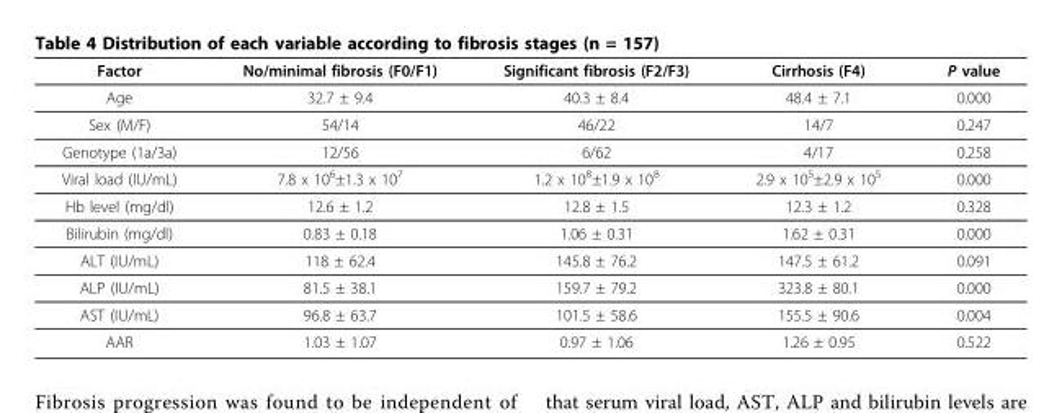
<table><thead><tr><td>Factor</td><td>No/minimal fibrosis (F0/F1)</td><td>Significant fibrosis (F2/F3)</td><td>Cirrhosis (F4)</td><td>P value</td></tr></thead><tbody><tr><td>Age</td><td>32.7 ± 9.4</td><td>40.3 ± 8.4</td><td>48.4 ± 7.1</td><td>0.000</td></tr><tr><td>Sex (M/F)</td><td>54/14</td><td>46/22</td><td>14/7</td><td>0.247</td></tr><tr><td>Genotype (1a/3a)</td><td>12/56</td><td>6/62</td><td>4/17</td><td>0.258</td></tr><tr><td>Viral load (IU/mL)</td><td>7.8 х 106±1.3 х 107</td><td>1.2 х 108±1.9 х 108</td><td>2.9 х 105±2.9 х 105</td><td>0.000</td></tr><tr><td>Hb level (mg/dl)</td><td>12.6 ± 1.2</td><td>12.8 ± 1.5</td><td>12.3 ± 1.2</td><td>0.328</td></tr><tr><td>Bilirubin (mg/dl)</td><td>0.83 ± 0.18</td><td>1.06 ± 0.31</td><td>1.62 ± 0.31</td><td>0.000</td></tr><tr><td>ALT (IU/mL)</td><td>118 ± 62.4</td><td>145.8 ± 76.2</td><td>147.5 ± 61.2</td><td>0.091</td></tr><tr><td>ALP (IU/mL)</td><td>81.5 ± 38.1</td><td>159.7 ± 79.2</td><td>323.8 ± 80.1</td><td>0.000</td></tr><tr><td>AST (IU/mL)</td><td>96.8 ± 63.7</td><td>101.5 ± 58.6</td><td>155.5 ± 90.6</td><td>0.004</td></tr><tr><td>AAR</td><td>1.03 ± 1.07</td><td>0.97 ± 1.06</td><td>1.26 ± 0.95</td><td>0.522</td></tr></tbody></table>